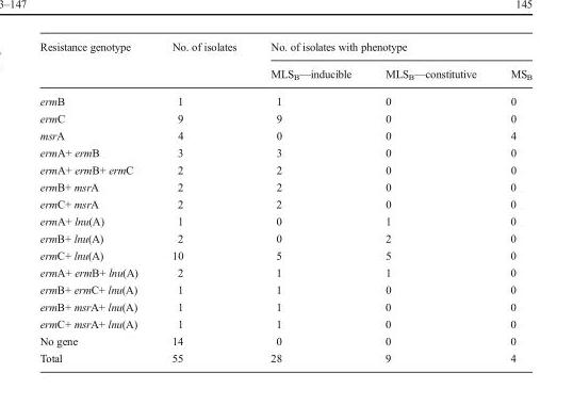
<table><thead><tr><td rowspan="2">Resistance genotype</td><td rowspan="2">No. of isolates</td><td colspan="3">No. of isolates with phenotype</td></tr><tr><td>MLS<sub>B</sub>—inducible</td><td>MLS<sub>B</sub>—constitutive</td><td>MS<sub>B</sub></td></tr></thead><tbody><tr><td>ermB</td><td>1</td><td>1</td><td>0</td><td>0</td></tr><tr><td>ermC</td><td>9</td><td>9</td><td>0</td><td>0</td></tr><tr><td>msrA</td><td>4</td><td>0</td><td>0</td><td>4</td></tr><tr><td>ermA+ ermB</td><td>3</td><td>3</td><td>0</td><td>0</td></tr><tr><td>ermA+ ermB+ ermC</td><td>2</td><td>2</td><td>0</td><td>0</td></tr><tr><td>ermB+ msrA</td><td>2</td><td>2</td><td>0</td><td>0</td></tr><tr><td>ermC+ msrA</td><td>2</td><td>2</td><td>0</td><td>0</td></tr><tr><td>ermA+ lnu(A)</td><td>1</td><td>0</td><td>1</td><td>0</td></tr><tr><td>ermB+ lnu(A)</td><td>2</td><td>0</td><td>2</td><td>0</td></tr><tr><td>ermC+ lnu(A)</td><td>10</td><td>5</td><td>5</td><td>0</td></tr><tr><td>ermA+ ermB+ lnu(A)</td><td>2</td><td>1</td><td>1</td><td>0</td></tr><tr><td>ermB+ ermC+ lnu(A)</td><td>1</td><td>1</td><td>0</td><td>0</td></tr><tr><td>ermB+ msrA+ lnu(A)</td><td>1</td><td>1</td><td>0</td><td>0</td></tr><tr><td>ermC+ msrA+ lnu(A)</td><td>1</td><td>1</td><td>0</td><td>0</td></tr><tr><td>No gene</td><td>14</td><td>0</td><td>0</td><td>0</td></tr><tr><td>Total</td><td>55</td><td>28</td><td>9</td><td>4</td></tr></tbody></table>